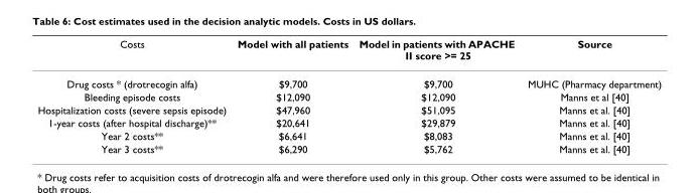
<table><thead><tr><td>Costs</td><td>Model with all patients</td><td>Model in patients with APACHE II score &gt;= 25</td><td>Source</td></tr></thead><tbody><tr><td>Drug costs * (drotrecogin alfa)</td><td>$9,700</td><td>$9,700</td><td>MUHC (Pharmacy department)</td></tr><tr><td>Bleeding episode costs</td><td>$12,090</td><td>$12,090</td><td>Manns et al [40]</td></tr><tr><td>Hospitalization costs (severe sepsis episode)</td><td>$47,960</td><td>$51,095</td><td>Manns et al. [40]</td></tr><tr><td>1-year costs (after hospital discharge)**</td><td>$20,641</td><td>$29,879</td><td>Manns et al. [40]</td></tr><tr><td>Year 2 costs**</td><td>$6,641</td><td>$8,083</td><td>Manns et al. [40]</td></tr><tr><td>Year 3 costs**</td><td>$6,290</td><td>$5,762</td><td>Manns et al. [40]</td></tr></tbody></table>